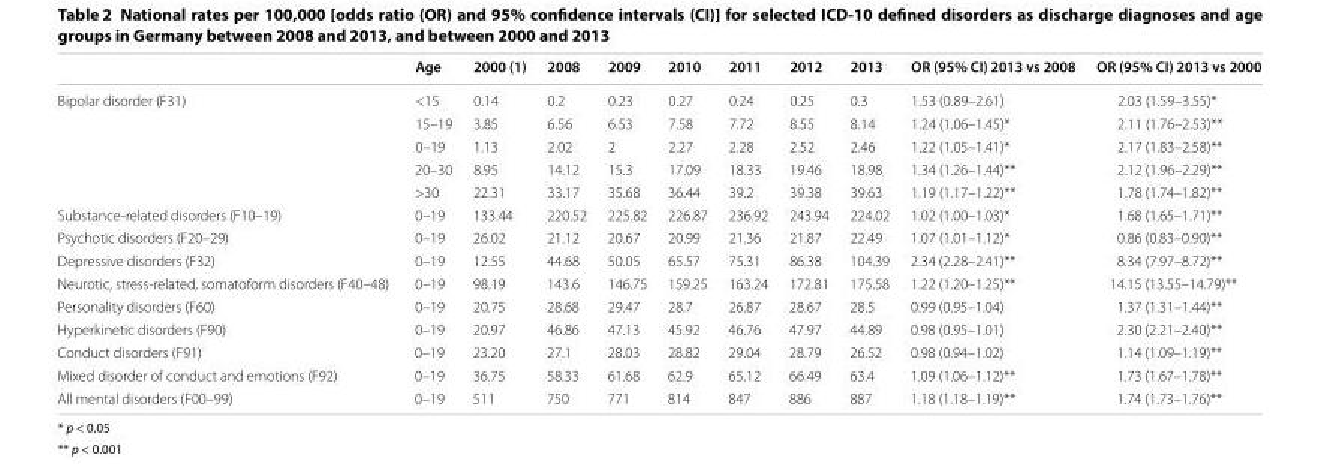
<table><thead><tr><td></td><td>Age</td><td>2000 (1)</td><td>2008</td><td>2009</td><td>2010</td><td>2011</td><td>2012</td><td>2013</td><td>OR (95% CI) 2013 vs 2008</td><td>OR (95% CI) 2013 vs 2000</td></tr></thead><tbody><tr><td rowspan="5">Bipolar disorder (F31)</td><td>&lt;15</td><td>0.14</td><td>0.2</td><td>0.23</td><td>0.27</td><td>0.24</td><td>0.25</td><td>0.3</td><td>1.53 (0.89–2.61)</td><td>2.03 (1.59–3.55)*</td></tr><tr><td>15–19</td><td>3.85</td><td>6.56</td><td>6.53</td><td>7.58</td><td>7.72</td><td>8.55</td><td>8.14</td><td>1.24 (1.06–1.45)*</td><td>2.11 (1.76–2.53)**</td></tr><tr><td>0–19</td><td>1.13</td><td>2.02</td><td>2</td><td>2.27</td><td>2.28</td><td>2.52</td><td>2.46</td><td>1.22 (1.05–1.41)*</td><td>2.17 (1.83–2.58)**</td></tr><tr><td>20–30</td><td>8.95</td><td>14.12</td><td>15.3</td><td>17.09</td><td>18.33</td><td>19.46</td><td>18.98</td><td>1.34 (1.26–1.44)**</td><td>2.12 (1.96–2.29)**</td></tr><tr><td>&gt;30</td><td>22.31</td><td>33.17</td><td>35.68</td><td>36.44</td><td>39.2</td><td>39.38</td><td>39.63</td><td>1.19 (1.17–1.22)**</td><td>1.78 (1.74–1.82)**</td></tr><tr><td>Substance-related disorders (F10–19)</td><td>0–19</td><td>133.44</td><td>220.52</td><td>225.82</td><td>226.87</td><td>236.92</td><td>243.94</td><td>224.02</td><td>1.02 (1.00–1.03)*</td><td>1.68 (1.65–1.71)**</td></tr><tr><td>Psychotic disorders (F20–29)</td><td>0–19</td><td>26.02</td><td>21.12</td><td>20.67</td><td>20.99</td><td>21.36</td><td>21.87</td><td>22.49</td><td>1.07 (1.01–1.12)*</td><td>0.86 (0.83–0.90)**</td></tr><tr><td>Depressive disorders (F32)</td><td>0–19</td><td>12.55</td><td>44.68</td><td>50.05</td><td>65.57</td><td>75.31</td><td>86.38</td><td>104.39</td><td>2.34 (2.28–2.41)**</td><td>8.34 (7.97–8.72)**</td></tr><tr><td>Neurotic, stress-related, somatoform disorders (F40–48)</td><td>0–19</td><td>98.19</td><td>143.6</td><td>146.75</td><td>159.25</td><td>163.24</td><td>172.81</td><td>175.58</td><td>1.22 (1.20–1.25)**</td><td>14.15 (13.55–14.79)**</td></tr><tr><td>Personality disorders (F60)</td><td>0–19</td><td>20.75</td><td>28.68</td><td>29.47</td><td>28.7</td><td>26.87</td><td>28.67</td><td>28.5</td><td>0.99 (0.95–1.04)</td><td>1.37 (1.31–1.44)**</td></tr><tr><td>Hyperkinetic disorders (F90)</td><td>0–19</td><td>20.97</td><td>46.86</td><td>47.13</td><td>45.92</td><td>46.76</td><td>47.97</td><td>44.89</td><td>0.98 (0.95–1.01)</td><td>2.30 (2.21–2.40)**</td></tr><tr><td>Conduct disorders (F91)</td><td>0–19</td><td>23.20</td><td>27.1</td><td>28.03</td><td>28.82</td><td>29.04</td><td>28.79</td><td>26.52</td><td>0.98 (0.94–1.02)</td><td>1.14 (1.09–1.19)**</td></tr><tr><td>Mixed disorder of conduct and emotions (F92)</td><td>0–19</td><td>36.75</td><td>58.33</td><td>61.68</td><td>62.9</td><td>65.12</td><td>66.49</td><td>63.4</td><td>1.09 (1.06–1.12)**</td><td>1.73 (1.67–1.78)**</td></tr><tr><td>All mental disorders (F00–99)</td><td>0–19</td><td>511</td><td>750</td><td>771</td><td>814</td><td>847</td><td>886</td><td>887</td><td>1.18 (1.18–1.19)**</td><td>1.74 (1.73–1.76)**</td></tr></tbody></table>